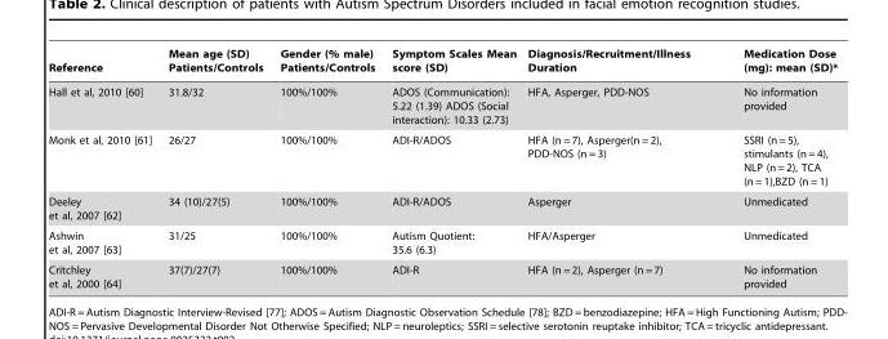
<table><thead><tr><td>Reference</td><td>Mean age (SD) Patients/Controls</td><td>Gender (% male) Patients/Controls</td><td>Symptom Scales Mean score (SD)</td><td>Diagnosis/Recruitment/Illness Duration</td><td>Medication Dose (mg): mean (SD)*</td></tr></thead><tbody><tr><td>Hall et al, 2010 [60]</td><td>31.8/32</td><td>100%/100%</td><td>ADOS (Communication): 5.22 (1.39) ADOS (Social interaction): 10.33 (2.73)</td><td>HFA, Asperger, PDD-NOS</td><td>No information provided</td></tr><tr><td>Monk et al, 2010 [61]</td><td>26/27</td><td>100%/100%</td><td>ADI-R/ADOS</td><td>HFA (n = 7), Asperger(n = 2), PDD-NOS (n = 3)</td><td>SSRI (n = 5), stimulants (n = 4), NLP (n = 2), TCA (n = 1),BZD (n = 1)</td></tr><tr><td>Deeley et al, 2007 [62]</td><td>34 (10)/27(5)</td><td>100%/100%</td><td>ADI-R/ADOS</td><td>Asperger</td><td>Unmedicated</td></tr><tr><td>Ashwin et al, 2007 [63]</td><td>31/25</td><td>100%/100%</td><td>Autism Quotient: 35.6 (6.3)</td><td>HFA/Asperger</td><td>Unmedicated</td></tr><tr><td>Critchley et al, 2000 [64]</td><td>37(7)/27(7)</td><td>100%/100%</td><td>ADI-R</td><td>HFA (n = 2), Asperger (n = 7)</td><td>No information provided</td></tr></tbody></table>